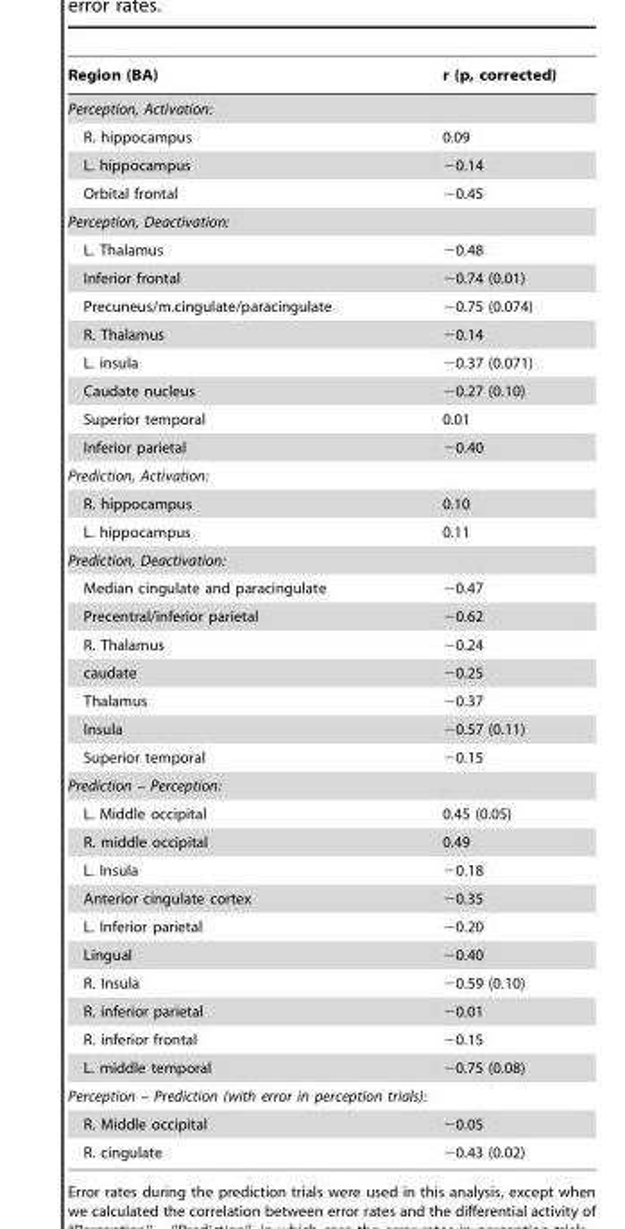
<table><thead><tr><td>Region (BA)</td><td>r (p, corrected)</td></tr></thead><tbody><tr><td colspan="2">Perception, Activation:</td></tr><tr><td>R. hippocampus</td><td>0.09</td></tr><tr><td>L. hippocampus</td><td>−0.14</td></tr><tr><td>Orbital frontal</td><td>−0.45</td></tr><tr><td colspan="2">Perception, Deactivation:</td></tr><tr><td>L. Thalamus</td><td>−0.48</td></tr><tr><td>Inferior frontal</td><td>−0.74 (0.01)</td></tr><tr><td>Precuneus/m.cingulate/paracingulate</td><td>−0.75 (0.074)</td></tr><tr><td>R. Thalamus</td><td>−0.14</td></tr><tr><td>L. insula</td><td>−0.37 (0.071)</td></tr><tr><td>Caudate nucleus</td><td>−0.27 (0.10)</td></tr><tr><td>Superior temporal</td><td>0.01</td></tr><tr><td>Inferior parietal</td><td>−0.40</td></tr><tr><td colspan="2">Prediction, Activation:</td></tr><tr><td>R. hippocampus</td><td>0.10</td></tr><tr><td>L. hippocampus</td><td>0.11</td></tr><tr><td colspan="2">Prediction, Deactivation:</td></tr><tr><td>Median cingulate and paracingulate</td><td>−0.47</td></tr><tr><td>Precentral/inferior parietal</td><td>−0.62</td></tr><tr><td>R. Thalamus</td><td>−0.24</td></tr><tr><td>caudate</td><td>−0.25</td></tr><tr><td>Thalamus</td><td>−0.37</td></tr><tr><td>Insula</td><td>−0.57 (0.11)</td></tr><tr><td>Superior temporal</td><td>−0.15</td></tr><tr><td colspan="2">Prediction – Perception:</td></tr><tr><td>L. Middle occipital</td><td>0.45 (0.05)</td></tr><tr><td>R. middle occipital</td><td>0.49</td></tr><tr><td>L. Insula</td><td>−0.18</td></tr><tr><td>Anterior cingulate cortex</td><td>−0.35</td></tr><tr><td>L. Inferior parietal</td><td>−0.20</td></tr><tr><td>Lingual</td><td>−0.40</td></tr><tr><td>R. Insula</td><td>−0.59 (0.10)</td></tr><tr><td>R. inferior parietal</td><td>−0.01</td></tr><tr><td>R. inferior frontal</td><td>−0.15</td></tr><tr><td>L. middle temporal</td><td>−0.75 (0.08)</td></tr><tr><td colspan="2">Perception – Prediction (with error in perception trials):</td></tr><tr><td>R. Middle occipital</td><td>−0.05</td></tr><tr><td>R. cingulate</td><td>−0.43 (0.02)</td></tr></tbody></table>